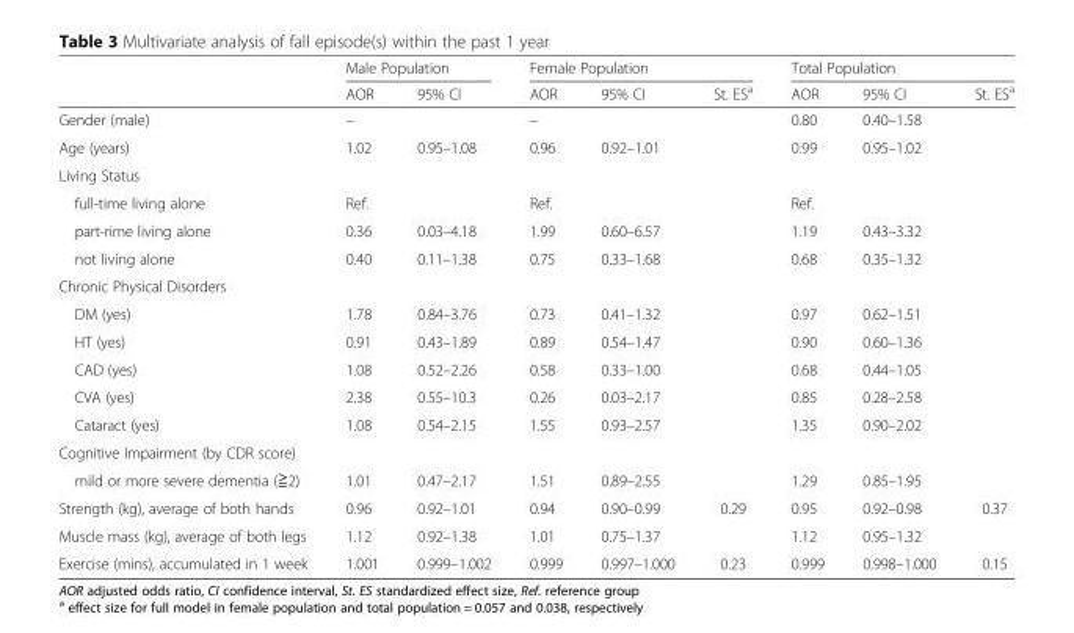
<table><thead><tr><td rowspan="2"></td><td colspan="2">Male Population</td><td colspan="3">Female Population</td><td colspan="3">Total Population</td></tr><tr><td>AOR</td><td>95% CI</td><td>AOR</td><td>95% CI</td><td>St. ES<sup>a</sup></td><td>AOR</td><td>95% CI</td><td>St. ES<sup>a</sup></td></tr></thead><tbody><tr><td>Gender (male)</td><td>–</td><td></td><td>–</td><td></td><td></td><td>0.80</td><td>0.40–1.58</td><td></td></tr><tr><td>Age (years)</td><td>1.02</td><td>0.95–1.08</td><td>0.96</td><td>0.92–1.01</td><td></td><td>0.99</td><td>0.95–1.02</td><td></td></tr><tr><td colspan="9">Living Status</td></tr><tr><td>full-time living alone</td><td>Ref.</td><td></td><td>Ref.</td><td></td><td></td><td>Ref.</td><td></td><td></td></tr><tr><td>part-rime living alone</td><td>0.36</td><td>0.03–4.18</td><td>1.99</td><td>0.60–6.57</td><td></td><td>1.19</td><td>0.43–3.32</td><td></td></tr><tr><td>not living alone</td><td>0.40</td><td>0.11–1.38</td><td>0.75</td><td>0.33–1.68</td><td></td><td>0.68</td><td>0.35–1.32</td><td></td></tr><tr><td colspan="9">Chronic Physical Disorders</td></tr><tr><td>DM (yes)</td><td>1.78</td><td>0.84–3.76</td><td>0.73</td><td>0.41–1.32</td><td></td><td>0.97</td><td>0.62–1.51</td><td></td></tr><tr><td>HT (yes)</td><td>0.91</td><td>0.43–1.89</td><td>0.89</td><td>0.54–1.47</td><td></td><td>0.90</td><td>0.60–1.36</td><td></td></tr><tr><td>CAD (yes)</td><td>1.08</td><td>0.52–2.26</td><td>0.58</td><td>0.33–1.00</td><td></td><td>0.68</td><td>0.44–1.05</td><td></td></tr><tr><td>CVA (yes)</td><td>2.38</td><td>0.55–10.3</td><td>0.26</td><td>0.03–2.17</td><td></td><td>0.85</td><td>0.28–2.58</td><td></td></tr><tr><td>Cataract (yes)</td><td>1.08</td><td>0.54–2.15</td><td>1.55</td><td>0.93–2.57</td><td></td><td>1.35</td><td>0.90–2.02</td><td></td></tr><tr><td colspan="9">Cognitive Impairment (by CDR score)</td></tr><tr><td>mild or more severe dementia (≧2)</td><td>1.01</td><td>0.47–2.17</td><td>1.51</td><td>0.89–2.55</td><td></td><td>1.29</td><td>0.85–1.95</td><td></td></tr><tr><td>Strength (kg), average of both hands</td><td>0.96</td><td>0.92–1.01</td><td>0.94</td><td>0.90–0.99</td><td>0.29</td><td>0.95</td><td>0.92–0.98</td><td>0.37</td></tr><tr><td>Muscle mass (kg), average of both legs</td><td>1.12</td><td>0.92–1.38</td><td>1.01</td><td>0.75–1.37</td><td></td><td>1.12</td><td>0.95–1.32</td><td></td></tr><tr><td>Exercise (mins), accumulated in 1 week</td><td>1.001</td><td>0.999–1.002</td><td>0.999</td><td>0.997–1.000</td><td>0.23</td><td>0.999</td><td>0.998–1.000</td><td>0.15</td></tr></tbody></table>